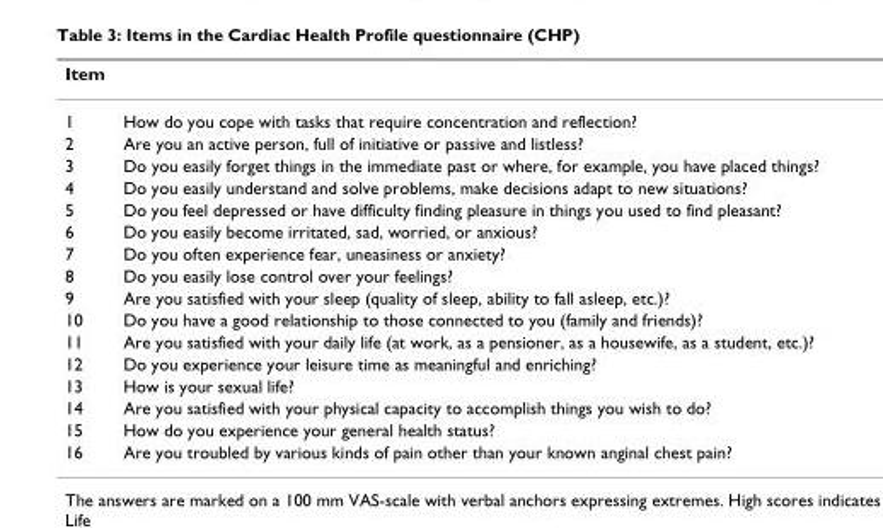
<table><thead><tr><td>Item</td><td></td></tr></thead><tbody><tr><td>1</td><td>How do you cope with tasks that require concentration and reflection?</td></tr><tr><td>2</td><td>Are you an active person, full of initiative or passive and listless?</td></tr><tr><td>3</td><td>Do you easily forget things in the immediate past or where, for example, you have placed things?</td></tr><tr><td>4</td><td>Do you easily understand and solve problems, make decisions adapt to new situations?</td></tr><tr><td>5</td><td>Do you feel depressed or have difficulty finding pleasure in things you used to find pleasant?</td></tr><tr><td>6</td><td>Do you easily become irritated, sad, worried, or anxious?</td></tr><tr><td>7</td><td>Do you often experience fear, uneasiness or anxiety?</td></tr><tr><td>8</td><td>Do you easily lose control over your feelings?</td></tr><tr><td>9</td><td>Are you satisfied with your sleep (quality of sleep, ability to fall asleep, etc.)?</td></tr><tr><td>10</td><td>Do you have a good relationship to those connected to you (family and friends)?</td></tr><tr><td>11</td><td>Are you satisfied with your daily life (at work, as a pensioner, as a housewife, as a student, etc.)?</td></tr><tr><td>12</td><td>Do you experience your leisure time as meaningful and enriching?</td></tr><tr><td>13</td><td>How is your sexual life?</td></tr><tr><td>14</td><td>Are you satisfied with your physical capacity to accomplish things you wish to do?</td></tr><tr><td>15</td><td>How do you experience your general health status?</td></tr><tr><td>16</td><td>Are you troubled by various kinds of pain other than your known anginal chest pain?</td></tr></tbody></table>